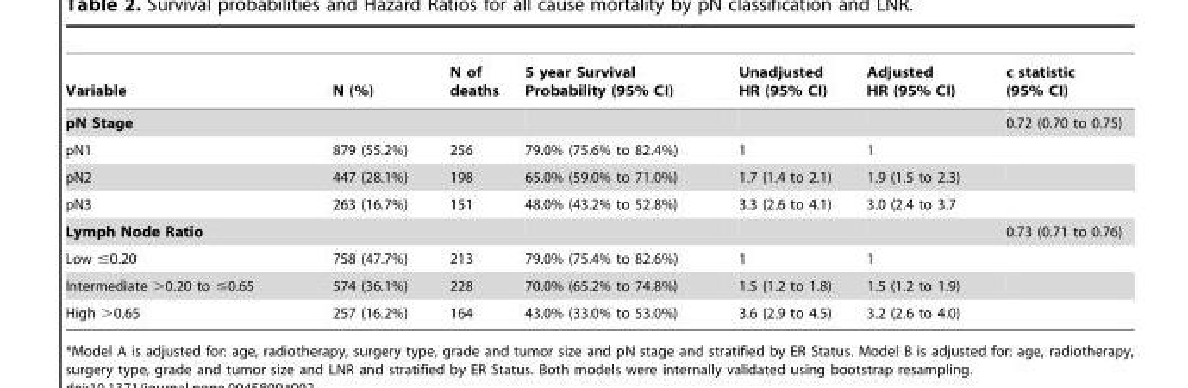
<table><thead><tr><td>Variable</td><td>N (%)</td><td>N of deaths</td><td>5 year Survival Probability (95% CI)</td><td>Unadjusted HR (95% CI)</td><td>Adjusted HR (95% CI)</td><td>c statistic (95% CI)</td></tr></thead><tbody><tr><td>pN Stage</td><td></td><td></td><td></td><td></td><td></td><td>0.72 (0.70 to 0.75)</td></tr><tr><td>pN1</td><td>879 (55.2%)</td><td>256</td><td>79.0% (75.6% to 82.4%)</td><td>1</td><td>1</td><td></td></tr><tr><td>pN2</td><td>447 (28.1%)</td><td>198</td><td>65.0% (59.0% to 71.0%)</td><td>1.7 (1.4 to 2.1)</td><td>1.9 (1.5 to 2.3)</td><td></td></tr><tr><td>pN3</td><td>263 (16.7%)</td><td>151</td><td>48.0% (43.2% to 52.8%)</td><td>3.3 (2.6 to 4.1)</td><td>3.0 (2.4 to 3.7</td><td></td></tr><tr><td>Lymph Node Ratio</td><td></td><td></td><td></td><td></td><td></td><td>0.73 (0.71 to 0.76)</td></tr><tr><td>Low ≤0.20</td><td>758 (47.7%)</td><td>213</td><td>79.0% (75.4% to 82.6%)</td><td>1</td><td>1</td><td></td></tr><tr><td>Intermediate &gt;0.20 to ≤0.65</td><td>574 (36.1%)</td><td>228</td><td>70.0% (65.2% to 74.8%)</td><td>1.5 (1.2 to 1.8)</td><td>1.5 (1.2 to 1.9)</td><td></td></tr><tr><td>High &gt;0.65</td><td>257 (16.2%)</td><td>164</td><td>43.0% (33.0% to 53.0%)</td><td>3.6 (2.9 to 4.5)</td><td>3.2 (2.6 to 4.0)</td><td></td></tr></tbody></table>